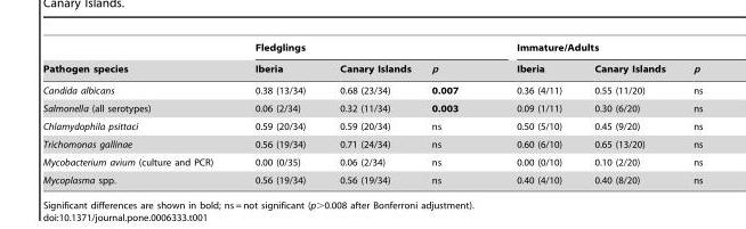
<table><thead><tr><td rowspan="2">Pathogen species</td><td colspan="3">Fledglings</td><td colspan="3">Immature/Adults</td></tr><tr><td>Iberia</td><td>Canary Islands</td><td>p</td><td>Iberia</td><td>Canary Islands</td><td>p</td></tr></thead><tbody><tr><td>Candida albicans</td><td>0.38 (13/34)</td><td>0.68 (23/34)</td><td>0.007</td><td>0.36 (4/11)</td><td>0.55 (11/20)</td><td>ns</td></tr><tr><td>Salmonella (all serotypes)</td><td>0.06 (2/34)</td><td>0.32 (11/34)</td><td>0.003</td><td>0.09 (1/11)</td><td>0.30 (6/20)</td><td>ns</td></tr><tr><td>Chlamydophila psittaci</td><td>0.59 (20/34)</td><td>0.59 (20/34)</td><td>ns</td><td>0.50 (5/10)</td><td>0.45 (9/20)</td><td>ns</td></tr><tr><td>Trichomonas gallinae</td><td>0.56 (19/34)</td><td>0.71 (24/34)</td><td>ns</td><td>0.60 (6/10)</td><td>0.65 (13/20)</td><td>ns</td></tr><tr><td>Mycobacterium avium (culture and PCR)</td><td>0.00 (0/35)</td><td>0.06 (2/34)</td><td>ns</td><td>0.00 (0/10)</td><td>0.10 (2/20)</td><td>ns</td></tr><tr><td>Mycoplasma spp.</td><td>0.56 (19/34)</td><td>0.56 (19/34)</td><td>ns</td><td>0.40 (4/10)</td><td>0.40 (8/20)</td><td>ns</td></tr></tbody></table>